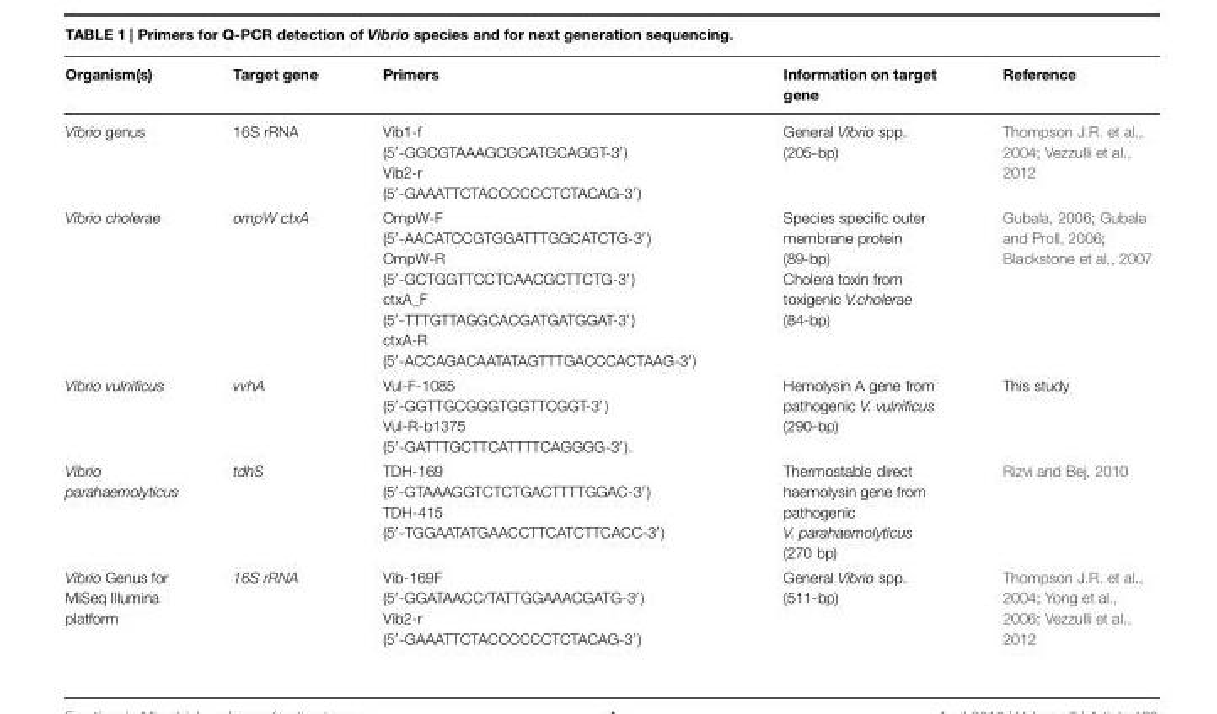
<table><thead><tr><td>Organism(s)</td><td>Target gene</td><td>Primers</td><td>Information on target gene</td><td>Reference</td></tr></thead><tbody><tr><td>Vibrio genus</td><td>16S rRNA</td><td>Vib1-f (5′-GGCGTAAAGCGCATGCAGGT-3′) Vib2-r (5′-GAAATTCTACCCCCCTCTACAG-3′)</td><td>General Vibrio spp. (205-bp)</td><td>Thompson J.R. et al., 2004; Vezzulli et al., 2012</td></tr><tr><td>Vibrio cholerae</td><td>ompW ctxA</td><td>OmpW-F (5′-AACATCCGTGGATTTGGCATCTG-3′) OmpW-R (5′-GCTGGTTCCTCAACGCTTCTG-3′) ctxA_F (5′-TTTGTTAGGCACGATGATGGAT-3′ ) ctxA-R (5′-ACCAGACAATATAGTTTGACCCACTAAG-3′)</td><td>Species specific outer membrane protein (89-bp) Cholera toxin from toxigenic V.cholerae (84-bp)</td><td>Gubala, 2006; Gubala and Proll, 2006; Blackstone et al., 2007</td></tr><tr><td>Vibrio vulnificus</td><td>vvhA</td><td>Vul-F-1085 (5′-GGTTGCGGGTGGTTCGGT-3′ ) Vul-R-b1375 (5′-GATTTGCTTCATTTTCAGGGG-3′ ).</td><td>Hemolysin A gene from pathogenic V. vulnificus (290-bp)</td><td>This study</td></tr><tr><td>Vibrio parahaemolyticus</td><td>tdhS</td><td>TDH-169 (5′-GTAAAGGTCTCTGACTTTTGGAC-3′) TDH-415 (5′-TGGAATATGAACCTTCATCTTCACC-3′)</td><td>Thermostable direct haemolysin gene from pathogenic V. parahaemolyticus (270 bp)</td><td>Rizvi and Bej, 2010</td></tr><tr><td>Vibrio Genus for MiSeq Illumina platform</td><td>16S rRNA</td><td>Vib-169F (5′-GGATAACC/TATTGGAAACGATG-3′) Vib2-r (5′-GAAATTCTACCCCCCTCTACAG-3′)</td><td>General Vibrio spp. (511-bp)</td><td>Thompson J.R. et al., 2004; Yong et al., 2006; Vezzulli et al., 2012</td></tr></tbody></table>